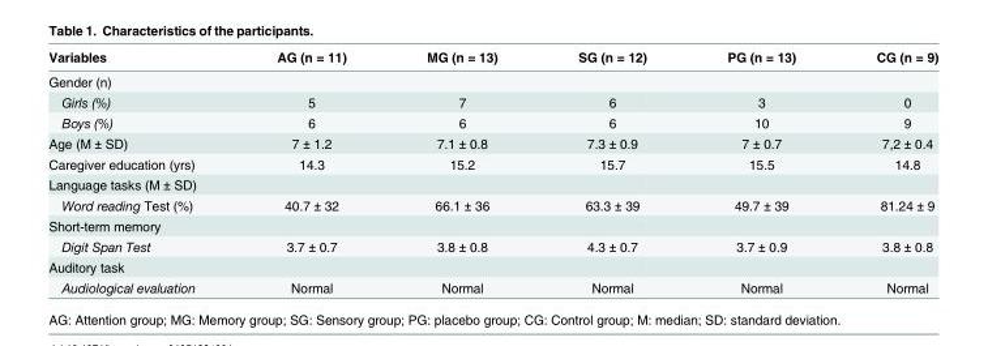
<table><thead><tr><td>Variables</td><td>AG (n = 11)</td><td>MG (n = 13)</td><td>SG (n = 12)</td><td>PG (n = 13)</td><td>CG (n = 9)</td></tr></thead><tbody><tr><td colspan="6">Gender (n)</td></tr><tr><td>Girls (%)</td><td>5</td><td>7</td><td>6</td><td>3</td><td>0</td></tr><tr><td>Boys (%)</td><td>6</td><td>6</td><td>6</td><td>10</td><td>9</td></tr><tr><td>Age (M ± SD)</td><td>7 ± 1.2</td><td>7.1 ± 0.8</td><td>7.3 ± 0.9</td><td>7 ± 0.7</td><td>7,2 ± 0.4</td></tr><tr><td>Caregiver education (yrs)</td><td>14.3</td><td>15.2</td><td>15.7</td><td>15.5</td><td>14.8</td></tr><tr><td colspan="6">Language tasks (M ± SD)</td></tr><tr><td>Word reading Test (%)</td><td>40.7 ± 32</td><td>66.1 ± 36</td><td>63.3 ± 39</td><td>49.7 ± 39</td><td>81.24 ± 9</td></tr><tr><td colspan="6">Short-term memory</td></tr><tr><td>Digit Span Test</td><td>3.7 ± 0.7</td><td>3.8 ± 0.8</td><td>4.3 ± 0.7</td><td>3.7 ± 0.9</td><td>3.8 ± 0.8</td></tr><tr><td colspan="6">Auditory task</td></tr><tr><td>Audiological evaluation</td><td>Normal</td><td>Normal</td><td>Normal</td><td>Normal</td><td>Normal</td></tr></tbody></table>